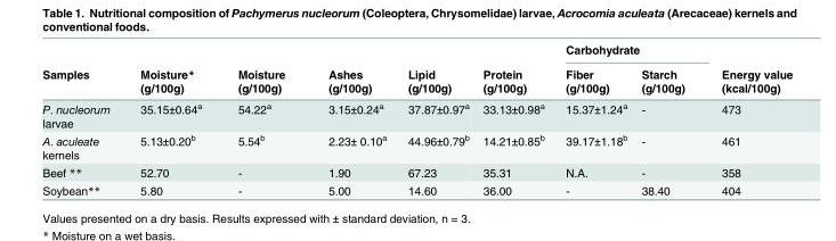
<table><thead><tr><td rowspan="2">Samples</td><td rowspan="2">Moisture* (g/100g)</td><td rowspan="2">Moisture (g/100g)</td><td rowspan="2">Ashes (g/100g)</td><td rowspan="2">Lipid (g/100g)</td><td rowspan="2">Protein (g/100g)</td><td colspan="2">Carbohydrate</td><td rowspan="2">Energy value (kcal/100g)</td></tr><tr><td>Fiber (g/100g)</td><td>Starch (g/100g)</td></tr></thead><tbody><tr><td>P. nucleorum larvae</td><td>35.15±0.64<sup>a</sup></td><td>54.22<sup>a</sup></td><td>3.15±0.24<sup>a</sup></td><td>37.87±0.97<sup>a</sup></td><td>33.13±0.98<sup>a</sup></td><td>15.37±1.24<sup>a</sup></td><td>-</td><td>473</td></tr><tr><td>A. aculeate kernels</td><td>5.13±0.20<sup>b</sup></td><td>5.54<sup>b</sup></td><td>2.23± 0.10<sup>a</sup></td><td>44.96±0.79<sup>b</sup></td><td>14.21±0.85<sup>b</sup></td><td>39.17±1.18<sup>b</sup></td><td>-</td><td>461</td></tr><tr><td>Beef **</td><td>52.70</td><td>-</td><td>1.90</td><td>67.23</td><td>35.31</td><td>N.A.</td><td>-</td><td>358</td></tr><tr><td>Soybean**</td><td>5.80</td><td>-</td><td>5.00</td><td>14.60</td><td>36.00</td><td>-</td><td>38.40</td><td>404</td></tr></tbody></table>